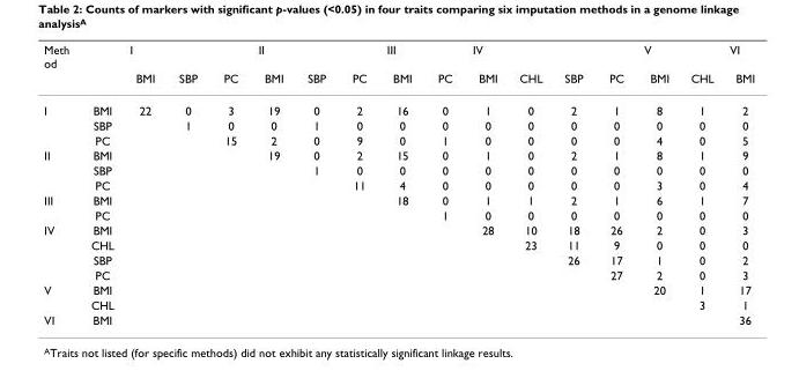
<table><thead><tr><td rowspan="2">Meth od</td><td rowspan="2"></td><td colspan="3">I</td><td colspan="3">II</td><td colspan="2">III</td><td colspan="4">IV</td><td colspan="2">V</td><td rowspan="2">VI BMI</td></tr><tr><td>BMI</td><td>SBP</td><td>PC</td><td>BMI</td><td>SBP</td><td>PC</td><td>BMI</td><td>PC</td><td>BMI</td><td>CHL</td><td>SBP</td><td>PC</td><td>BMI</td><td>CHL</td></tr></thead><tbody><tr><td rowspan="3">I</td><td>BMI</td><td>22</td><td>0</td><td>3</td><td>19</td><td>0</td><td>2</td><td>16</td><td>0</td><td>1</td><td>0</td><td>2</td><td>1</td><td>8</td><td>1</td><td>2</td></tr><tr><td>SBP</td><td></td><td>1</td><td>0</td><td>0</td><td>1</td><td>0</td><td>0</td><td>0</td><td>0</td><td>0</td><td>0</td><td>0</td><td>0</td><td>0</td><td>0</td></tr><tr><td>PC</td><td></td><td></td><td>15</td><td>2</td><td>0</td><td>9</td><td>0</td><td>1</td><td>0</td><td>0</td><td>0</td><td>0</td><td>4</td><td>0</td><td>5</td></tr><tr><td rowspan="3">II</td><td>BMI</td><td></td><td></td><td></td><td>19</td><td>0</td><td>2</td><td>15</td><td>0</td><td>1</td><td>0</td><td>2</td><td>1</td><td>8</td><td>1</td><td>9</td></tr><tr><td>SBP</td><td></td><td></td><td></td><td></td><td>1</td><td>0</td><td>0</td><td>0</td><td>0</td><td>0</td><td>0</td><td>0</td><td>0</td><td>0</td><td>0</td></tr><tr><td>PC</td><td></td><td></td><td></td><td></td><td></td><td>11</td><td>4</td><td>0</td><td>0</td><td>0</td><td>0</td><td>0</td><td>3</td><td>0</td><td>4</td></tr><tr><td rowspan="2">III</td><td>BMI</td><td></td><td></td><td></td><td></td><td></td><td></td><td>18</td><td>0</td><td>1</td><td>1</td><td>2</td><td>1</td><td>6</td><td>1</td><td>7</td></tr><tr><td>PC</td><td></td><td></td><td></td><td></td><td></td><td></td><td></td><td>1</td><td>0</td><td>0</td><td>0</td><td>0</td><td>0</td><td>0</td><td>0</td></tr><tr><td rowspan="4">IV</td><td>BMI</td><td></td><td></td><td></td><td></td><td></td><td></td><td></td><td></td><td>28</td><td>10</td><td>18</td><td>26</td><td>2</td><td>0</td><td>3</td></tr><tr><td>CHL</td><td></td><td></td><td></td><td></td><td></td><td></td><td></td><td></td><td></td><td>23</td><td>11</td><td>9</td><td>0</td><td>0</td><td>0</td></tr><tr><td>SBP</td><td></td><td></td><td></td><td></td><td></td><td></td><td></td><td></td><td></td><td></td><td>26</td><td>17</td><td>1</td><td>0</td><td>2</td></tr><tr><td>PC</td><td></td><td></td><td></td><td></td><td></td><td></td><td></td><td></td><td></td><td></td><td></td><td>27</td><td>2</td><td>0</td><td>3</td></tr><tr><td rowspan="2">V</td><td>BMI</td><td></td><td></td><td></td><td></td><td></td><td></td><td></td><td></td><td></td><td></td><td></td><td></td><td>20</td><td>1</td><td>17</td></tr><tr><td>CHL</td><td></td><td></td><td></td><td></td><td></td><td></td><td></td><td></td><td></td><td></td><td></td><td></td><td></td><td>3</td><td>1</td></tr><tr><td>VI</td><td>BMI</td><td></td><td></td><td></td><td></td><td></td><td></td><td></td><td></td><td></td><td></td><td></td><td></td><td></td><td></td><td>36</td></tr></tbody></table>